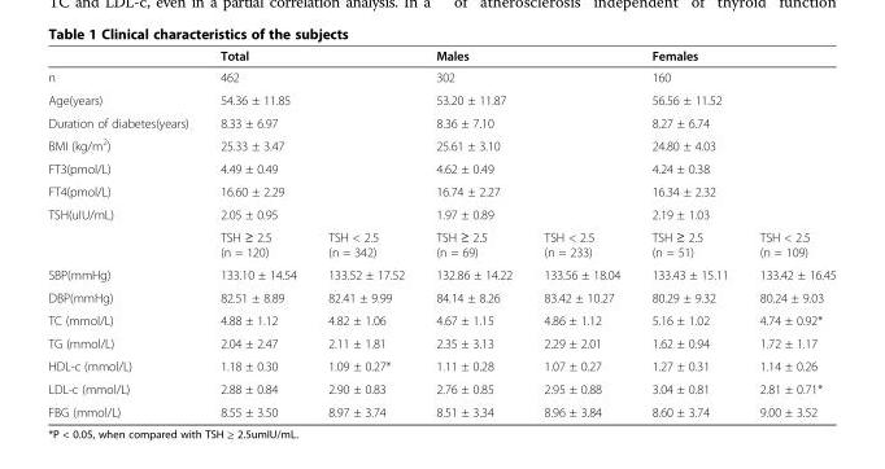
<table><thead><tr><td></td><td colspan="2">Total</td><td colspan="2">Males</td><td colspan="2">Females</td></tr></thead><tbody><tr><td>n</td><td colspan="2">462</td><td colspan="2">302</td><td colspan="2">160</td></tr><tr><td>Age(years)</td><td colspan="2">54.36 ± 11.85</td><td colspan="2">53.20 ± 11.87</td><td colspan="2">56.56 ± 11.52</td></tr><tr><td>Duration of diabetes(years)</td><td colspan="2">8.33 ± 6.97</td><td colspan="2">8.36 ± 7.10</td><td colspan="2">8.27 ± 6.74</td></tr><tr><td>BMI (kg/m<sup>2</sup>)</td><td colspan="2">25.33 ± 3.47</td><td colspan="2">25.61 ± 3.10</td><td colspan="2">24.80 ± 4.03</td></tr><tr><td>FT3(pmol/L)</td><td colspan="2">4.49 ± 0.49</td><td colspan="2">4.62 ± 0.49</td><td colspan="2">4.24 ± 0.38</td></tr><tr><td>FT4(pmol/L)</td><td colspan="2">16.60 ± 2.29</td><td colspan="2">16.74 ± 2.27</td><td colspan="2">16.34 ± 2.32</td></tr><tr><td rowspan="2">TSH(uIU/mL)</td><td colspan="2">2.05 ± 0.95</td><td colspan="2">1.97 ± 0.89</td><td colspan="2">2.19 ± 1.03</td></tr><tr><td>TSH ≥ 2.5 (n = 120)</td><td>TSH &lt; 2.5 (n = 342)</td><td>TSH ≥ 2.5 (n = 69)</td><td>TSH &lt; 2.5 (n = 233)</td><td>TSH ≥ 2.5 (n = 51)</td><td>TSH &lt; 2.5 (n = 109)</td></tr><tr><td>SBP(mmHg)</td><td>133.10 ± 14.54</td><td>133.52 ± 17.52</td><td>132.86 ± 14.22</td><td>133.56 ± 18.04</td><td>133.43 ± 15.11</td><td>133.42 ± 16.45</td></tr><tr><td>DBP(mmHg)</td><td>82.51 ± 8.89</td><td>82.41 ± 9.99</td><td>84.14 ± 8.26</td><td>83.42 ± 10.27</td><td>80.29 ± 9.32</td><td>80.24 ± 9.03</td></tr><tr><td>TC (mmol/L)</td><td>4.88 ± 1.12</td><td>4.82 ± 1.06</td><td>4.67 ± 1.15</td><td>4.86 ± 1.12</td><td>5.16 ± 1.02</td><td>4.74 ± 0.92*</td></tr><tr><td>TG (mmol/L)</td><td>2.04 ± 2.47</td><td>2.11 ± 1.81</td><td>2.35 ± 3.13</td><td>2.29 ± 2.01</td><td>1.62 ± 0.94</td><td>1.72 ± 1.17</td></tr><tr><td>HDL-c (mmol/L)</td><td>1.18 ± 0.30</td><td>1.09 ± 0.27*</td><td>1.11 ± 0.28</td><td>1.07 ± 0.27</td><td>1.27 ± 0.31</td><td>1.14 ± 0.26</td></tr><tr><td>LDL-c (mmol/L)</td><td>2.88 ± 0.84</td><td>2.90 ± 0.83</td><td>2.76 ± 0.85</td><td>2.95 ± 0.88</td><td>3.04 ± 0.81</td><td>2.81 ± 0.71*</td></tr><tr><td>FBG (mmol/L)</td><td>8.55 ± 3.50</td><td>8.97 ± 3.74</td><td>8.51 ± 3.34</td><td>8.96 ± 3.84</td><td>8.60 ± 3.74</td><td>9.00 ± 3.52</td></tr></tbody></table>